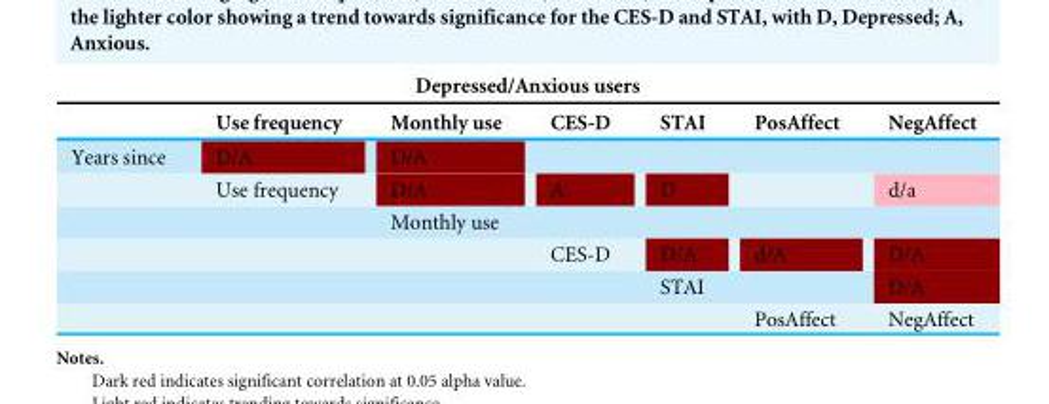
<table><thead><tr><td colspan="7">Depressed/Anxious users</td></tr><tr><td></td><td>Use frequency</td><td>Monthly use</td><td>CES-D</td><td>STAI</td><td>PosAffect</td><td>NegAffect</td></tr></thead><tbody><tr><td rowspan="6">Years since</td><td>D/A</td><td>D/A</td><td></td><td></td><td></td><td></td></tr><tr><td>Use frequency</td><td>D/A</td><td>A</td><td>D</td><td></td><td>d/a</td></tr><tr><td></td><td>Monthly use</td><td></td><td></td><td></td><td></td></tr><tr><td></td><td></td><td>CES-D</td><td>D/A</td><td>d/A</td><td>D/A</td></tr><tr><td></td><td></td><td></td><td>STAI</td><td></td><td>D/A</td></tr><tr><td></td><td></td><td></td><td></td><td>PosAffect</td><td>NegAffect</td></tr></tbody></table>